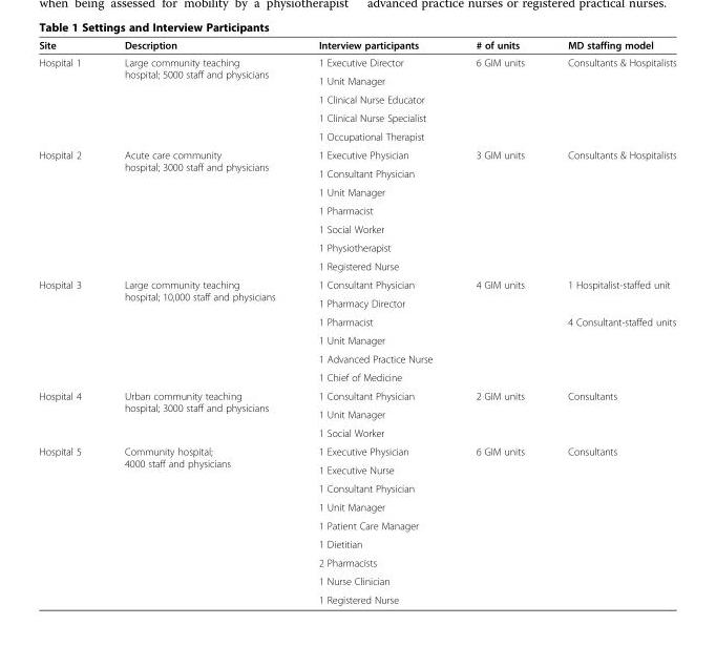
<table><thead><tr><td>Site</td><td>Description</td><td>Interview participants</td><td># of units</td><td>MD staffing model</td></tr></thead><tbody><tr><td rowspan="5">Hospital 1</td><td rowspan="5">Large community teaching hospital; 5000 staff and physicians</td><td>1 Executive Director</td><td rowspan="5">6 GIM units</td><td rowspan="5">Consultants &amp; Hospitalists</td></tr><tr><td>1 Unit Manager</td></tr><tr><td>1 Clinical Nurse Educator</td></tr><tr><td>1 Clinical Nurse Specialist</td></tr><tr><td>1 Occupational Therapist</td></tr><tr><td rowspan="7">Hospital 2</td><td rowspan="7">Acute care community hospital; 3000 staff and physicians</td><td>1 Executive Physician</td><td rowspan="7">3 GIM units</td><td rowspan="7">Consultants &amp; Hospitalists</td></tr><tr><td>1 Consultant Physician</td></tr><tr><td>1 Unit Manager</td></tr><tr><td>1 Pharmacist</td></tr><tr><td>1 Social Worker</td></tr><tr><td>1 Physiotherapist</td></tr><tr><td>1 Registered Nurse</td></tr><tr><td rowspan="6">Hospital 3</td><td rowspan="6">Large community teaching hospital; 10,000 staff and physicians</td><td>1 Consultant Physician</td><td rowspan="2">4 GIM units</td><td rowspan="2">1 Hospitalist-staffed unit</td></tr><tr><td>1 Pharmacy Director</td></tr><tr><td>1 Pharmacist</td><td rowspan="4"></td><td rowspan="4">4 Consultant-staffed units</td></tr><tr><td>1 Unit Manager</td></tr><tr><td>1 Advanced Practice Nurse</td></tr><tr><td>1 Chief of Medicine</td></tr><tr><td rowspan="3">Hospital 4</td><td rowspan="3">Urban community teaching hospital; 3000 staff and physicians</td><td>1 Consultant Physician</td><td rowspan="3">2 GIM units</td><td rowspan="3">Consultants</td></tr><tr><td>1 Unit Manager</td></tr><tr><td>1 Social Worker</td></tr><tr><td rowspan="9">Hospital 5</td><td rowspan="9">Community hospital; 4000 staff and physicians</td><td>1 Executive Physician</td><td rowspan="9">6 GIM units</td><td rowspan="9">Consultants</td></tr><tr><td>1 Executive Nurse</td></tr><tr><td>1 Consultant Physician</td></tr><tr><td>1 Unit Manager</td></tr><tr><td>1 Patient Care Manager</td></tr><tr><td>1 Dietitian</td></tr><tr><td>2 Pharmacists</td></tr><tr><td>1 Nurse Clinician</td></tr><tr><td>1 Registered Nurse</td></tr></tbody></table>